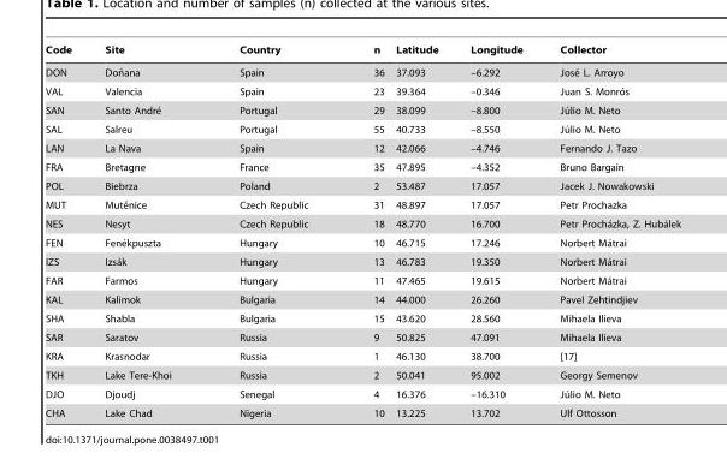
<table><thead><tr><td>Code</td><td>Site</td><td>Country</td><td>n</td><td>Latitude</td><td>Longitude</td><td>Collector</td></tr></thead><tbody><tr><td>DON</td><td>Don˜ana</td><td>Spain</td><td>36</td><td>37.093</td><td>–6.292</td><td>Jose´ L. Arroyo</td></tr><tr><td>VAL</td><td>Valencia</td><td>Spain</td><td>23</td><td>39.364</td><td>–0.346</td><td>Juan S. Monro´s</td></tr><tr><td>SAN</td><td>Santo Andre´</td><td>Portugal</td><td>29</td><td>38.099</td><td>–8.800</td><td>Ju´lio M. Neto</td></tr><tr><td>SAL</td><td>Salreu</td><td>Portugal</td><td>55</td><td>40.733</td><td>–8.550</td><td>Ju´lio M. Neto</td></tr><tr><td>LAN</td><td>La Nava</td><td>Spain</td><td>12</td><td>42.066</td><td>–4.746</td><td>Fernando J. Tazo</td></tr><tr><td>FRA</td><td>Bretagne</td><td>France</td><td>35</td><td>47.895</td><td>–4.352</td><td>Bruno Bargain</td></tr><tr><td>POL</td><td>Biebrza</td><td>Poland</td><td>2</td><td>53.487</td><td>17.057</td><td>Jacek J. Nowakowski</td></tr><tr><td>MUT</td><td>Muteˇnice</td><td>Czech Republic</td><td>31</td><td>48.897</td><td>17.057</td><td>Petr Prochazka</td></tr><tr><td>NES</td><td>Nesyt</td><td>Czech Republic</td><td>18</td><td>48.770</td><td>16.700</td><td>Petr Procha´zka, Z. Huba´lek</td></tr><tr><td>FEN</td><td>Fene´kpuszta</td><td>Hungary</td><td>10</td><td>46.715</td><td>17.246</td><td>Norbert Ma´trai</td></tr><tr><td>IZS</td><td>Izsa´k</td><td>Hungary</td><td>13</td><td>46.783</td><td>19.350</td><td>Norbert Ma´trai</td></tr><tr><td>FAR</td><td>Farmos</td><td>Hungary</td><td>11</td><td>47.465</td><td>19.615</td><td>Norbert Ma´trai</td></tr><tr><td>KAL</td><td>Kalimok</td><td>Bulgaria</td><td>14</td><td>44.000</td><td>26.260</td><td>Pavel Zehtindjiev</td></tr><tr><td>SHA</td><td>Shabla</td><td>Bulgaria</td><td>15</td><td>43.620</td><td>28.560</td><td>Mihaela Ilieva</td></tr><tr><td>SAR</td><td>Saratov</td><td>Russia</td><td>9</td><td>50.825</td><td>47.091</td><td>Mihaela Ilieva</td></tr><tr><td>KRA</td><td>Krasnodar</td><td>Russia</td><td>1</td><td>46.130</td><td>38.700</td><td>[17]</td></tr><tr><td>TKH</td><td>Lake Tere-Khoi</td><td>Russia</td><td>2</td><td>50.041</td><td>95.002</td><td>Georgy Semenov</td></tr><tr><td>DJO</td><td>Djoudj</td><td>Senegal</td><td>4</td><td>16.376</td><td>–16.310</td><td>Ju´lio M. Neto</td></tr><tr><td>CHA</td><td>Lake Chad</td><td>Nigeria</td><td>10</td><td>13.225</td><td>13.702</td><td>Ulf Ottosson</td></tr></tbody></table>